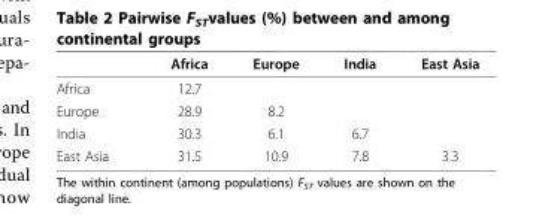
<table><thead><tr><td></td><td>Africa</td><td>Europe</td><td>India</td><td>East Asia</td></tr></thead><tbody><tr><td>Africa</td><td>12.7</td><td></td><td></td><td></td></tr><tr><td>Europe</td><td>28.9</td><td>8.2</td><td></td><td></td></tr><tr><td>India</td><td>30.3</td><td>6.1</td><td>6.7</td><td></td></tr><tr><td>East Asia</td><td>31.5</td><td>10.9</td><td>7.8</td><td>3.3</td></tr></tbody></table>